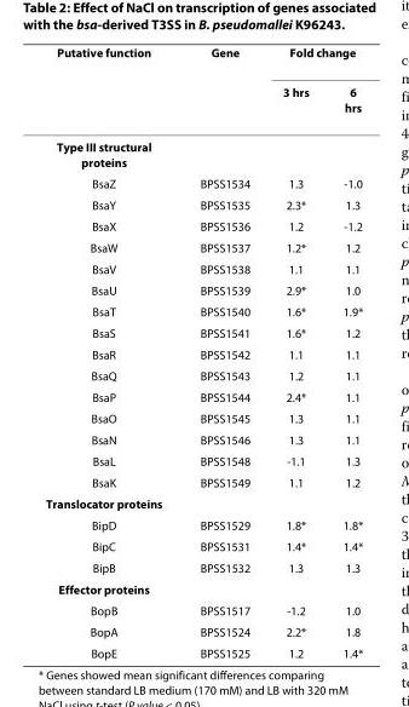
<table><thead><tr><td rowspan="2">Putative function</td><td rowspan="2">Gene</td><td colspan="2">Fold change</td></tr><tr><td>3 hrs</td><td>6 hrs</td></tr></thead><tbody><tr><td colspan="4">Type III structural proteins</td></tr><tr><td>BsaZ</td><td>BPSS1534</td><td>1.3</td><td>-1.0</td></tr><tr><td>BsaY</td><td>BPSS1535</td><td>2.3*</td><td>1.3</td></tr><tr><td>BsaX</td><td>BPSS1536</td><td>1.2</td><td>-1.2</td></tr><tr><td>BsaW</td><td>BPSS1537</td><td>1.2*</td><td>1.2</td></tr><tr><td>BsaV</td><td>BPSS1538</td><td>1.1</td><td>1.1</td></tr><tr><td>BsaU</td><td>BPSS1539</td><td>2.9*</td><td>1.0</td></tr><tr><td>BsaT</td><td>BPSS1540</td><td>1.6*</td><td>1.9*</td></tr><tr><td>BsaS</td><td>BPSS1541</td><td>1.6*</td><td>1.2</td></tr><tr><td>BsaR</td><td>BPSS1542</td><td>1.1</td><td>1.1</td></tr><tr><td>BsaQ</td><td>BPSS1543</td><td>1.2</td><td>1.1</td></tr><tr><td>BsaP</td><td>BPSS1544</td><td>2.4*</td><td>1.1</td></tr><tr><td>BsaO</td><td>BPSS1545</td><td>1.3</td><td>1.1</td></tr><tr><td>BsaN</td><td>BPSS1546</td><td>1.3</td><td>1.1</td></tr><tr><td>BsaL</td><td>BPSS1548</td><td>-1.1</td><td>1.3</td></tr><tr><td>BsaK</td><td>BPSS1549</td><td>1.1</td><td>1.2</td></tr><tr><td colspan="4">Translocator proteins</td></tr><tr><td>BipD</td><td>BPSS1529</td><td>1.8*</td><td>1.8*</td></tr><tr><td>BipC</td><td>BPSS1531</td><td>1.4*</td><td>1.4*</td></tr><tr><td>BipB</td><td>BPSS1532</td><td>1.3</td><td>1.3</td></tr><tr><td colspan="4">Effector proteins</td></tr><tr><td>BopB</td><td>BPSS1517</td><td>-1.2</td><td>1.0</td></tr><tr><td>BopA</td><td>BPSS1524</td><td>2.2*</td><td>1.8</td></tr><tr><td>BopE</td><td>BPSS1525</td><td>1.2</td><td>1.4*</td></tr></tbody></table>